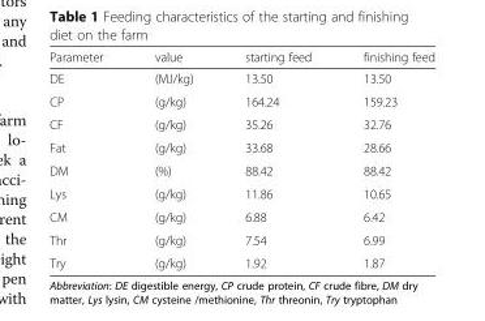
<table><thead><tr><td>Parameter</td><td>value</td><td>starting feed</td><td>finishing feed</td></tr></thead><tbody><tr><td>DE</td><td>(MJ/kg)</td><td>13.50</td><td>13.50</td></tr><tr><td>CP</td><td>(g/kg)</td><td>164.24</td><td>159.23</td></tr><tr><td>CF</td><td>(g/kg)</td><td>35.26</td><td>32.76</td></tr><tr><td>Fat</td><td>(g/kg)</td><td>33.68</td><td>28.66</td></tr><tr><td>DM</td><td>(%)</td><td>88.42</td><td>88.42</td></tr><tr><td>Lys</td><td>(g/kg)</td><td>11.86</td><td>10.65</td></tr><tr><td>CM</td><td>(g/kg)</td><td>6.88</td><td>6.42</td></tr><tr><td>Thr</td><td>(g/kg)</td><td>7.54</td><td>6.99</td></tr><tr><td>Try</td><td>(g/kg)</td><td>1.92</td><td>1.87</td></tr></tbody></table>